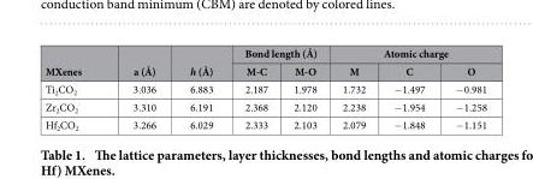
<table><thead><tr><td rowspan="2">MXenes</td><td rowspan="2">a (Å)</td><td rowspan="2">h (Å)</td><td colspan="2">Bond length (Å)</td><td colspan="3">Atomic charge</td></tr><tr><td>M-C</td><td>M-O</td><td>M</td><td>C</td><td>O</td></tr></thead><tbody><tr><td>Ti<sub>2</sub>CO<sub>2</sub></td><td>3.036</td><td>6.883</td><td>2.187</td><td>1.978</td><td>1.732</td><td>− 1.497</td><td>− 0.981</td></tr><tr><td>Zr<sub>2</sub>CO<sub>2</sub></td><td>3.310</td><td>6.191</td><td>2.368</td><td>2.120</td><td>2.238</td><td>− 1.954</td><td>− 1.258</td></tr><tr><td>Hf<sub>2</sub>CO<sub>2</sub></td><td>3.266</td><td>6.029</td><td>2.333</td><td>2.103</td><td>2.079</td><td>− 1.848</td><td>− 1.151</td></tr></tbody></table>